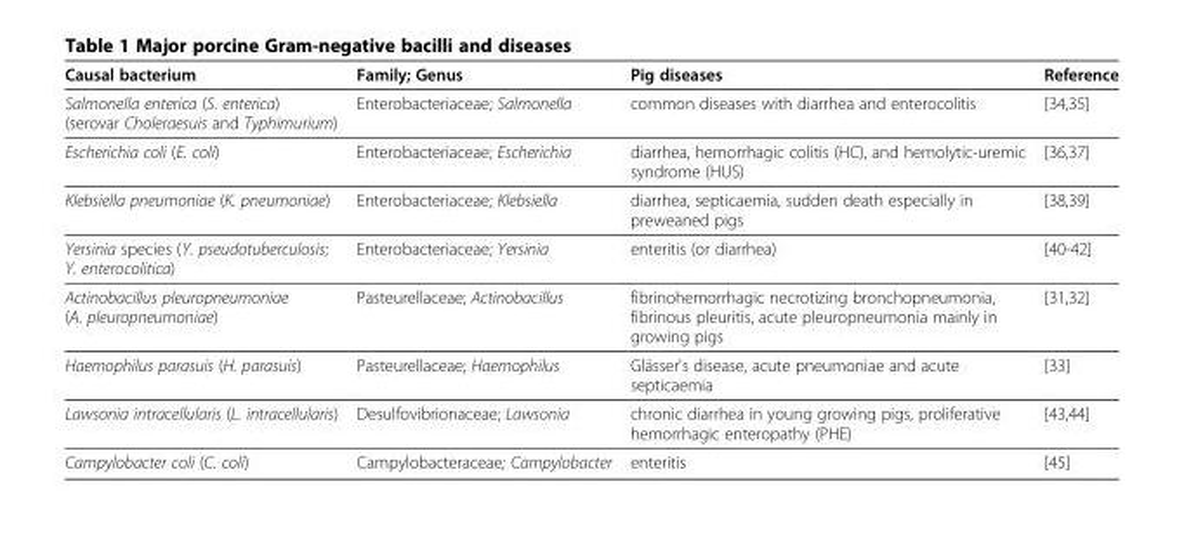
<table><thead><tr><td>Causal bacterium</td><td>Family; Genus</td><td>Pig diseases</td><td>Reference</td></tr></thead><tbody><tr><td>Salmonella enterica (S. enterica) (serovar Choleraesuis and Typhimurium)</td><td>Enterobacteriaceae; Salmonella</td><td>common diseases with diarrhea and enterocolitis</td><td>[34,35]</td></tr><tr><td>Escherichia coli (E. coli)</td><td>Enterobacteriaceae; Escherichia</td><td>diarrhea, hemorrhagic colitis (HC), and hemolytic-uremic syndrome (HUS)</td><td>[36,37]</td></tr><tr><td>Klebsiella pneumoniae (K. pneumoniae)</td><td>Enterobacteriaceae; Klebsiella</td><td>diarrhea, septicaemia, sudden death especially in preweaned pigs</td><td>[38,39]</td></tr><tr><td>Yersinia species (Y. pseudotuberculosis; Y. enterocolitica)</td><td>Enterobacteriaceae; Yersinia</td><td>enteritis (or diarrhea)</td><td>[40-42]</td></tr><tr><td>Actinobacillus pleuropneumoniae (A. pleuropneumoniae)</td><td>Pasteurellaceae; Actinobacillus</td><td>fibrinohemorrhagic necrotizing bronchopneumonia, fibrinous pleuritis, acute pleuropneumonia mainly in growing pigs</td><td>[31,32]</td></tr><tr><td>Haemophilus parasuis (H. parasuis)</td><td>Pasteurellaceae; Haemophilus</td><td>Glässer&#x27;s disease, acute pneumoniae and acute septicaemia</td><td>[33]</td></tr><tr><td>Lawsonia intracellularis (L. intracellularis)</td><td>Desulfovibrionaceae; Lawsonia</td><td>chronic diarrhea in young growing pigs, proliferative hemorrhagic enteropathy (PHE)</td><td>[43,44]</td></tr><tr><td>Campylobacter coli (C. coli)</td><td>Campylobacteraceae; Campylobacter</td><td>enteritis</td><td>[45]</td></tr></tbody></table>